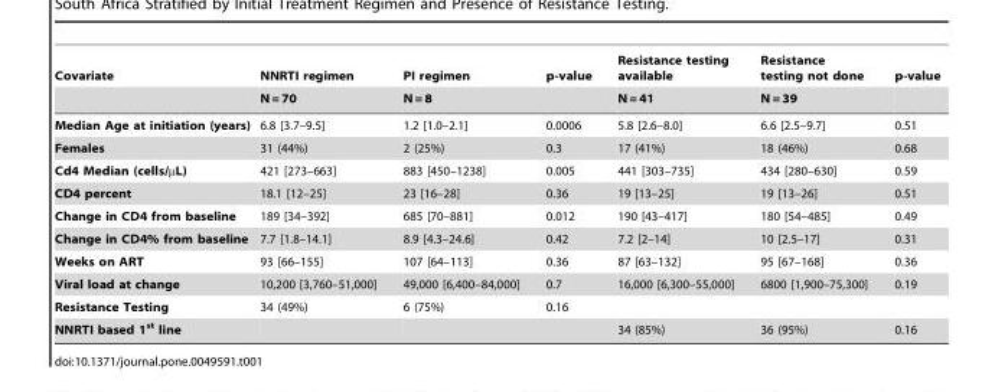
<table><thead><tr><td rowspan="2">Covariate</td><td rowspan="2">NNRTI regimen N = 70</td><td rowspan="2">PI regimen N = 8</td><td rowspan="2">p-value</td><td rowspan="2">Resistance testing available N = 41</td><td rowspan="2">Resistance testing not done N = 39</td><td rowspan="2">p-value</td></tr><tr></tr></thead><tbody><tr><td>Median Age at initiation (years)</td><td>6.8 [3.7–9.5]</td><td>1.2 [1.0–2.1]</td><td>0.0006</td><td>5.8 [2.6–8.0]</td><td>6.6 [2.5–9.7]</td><td>0.51</td></tr><tr><td>Females</td><td>31 (44%)</td><td>2 (25%)</td><td>0.3</td><td>17 (41%)</td><td>18 (46%)</td><td>0.68</td></tr><tr><td>Cd4 Median (cells/µL)</td><td>421 [273–663]</td><td>883 [450–1238]</td><td>0.005</td><td>441 [303–735]</td><td>434 [280–630]</td><td>0.59</td></tr><tr><td>CD4 percent</td><td>18.1 [12–25]</td><td>23 [16–28]</td><td>0.36</td><td>19 [13–25]</td><td>19 [13–26]</td><td>0.51</td></tr><tr><td>Change in CD4 from baseline</td><td>189 [34–392]</td><td>685 [70–881]</td><td>0.012</td><td>190 [43–417]</td><td>180 [54–485]</td><td>0.49</td></tr><tr><td>Change in CD4% from baseline</td><td>7.7 [1.8–14.1]</td><td>8.9 [4.3–24.6]</td><td>0.42</td><td>7.2 [2–14]</td><td>10 [2.5–17]</td><td>0.31</td></tr><tr><td>Weeks on ART</td><td>93 [66–155]</td><td>107 [64–113]</td><td>0.36</td><td>87 [63–132]</td><td>95 [67–168]</td><td>0.36</td></tr><tr><td>Viral load at change</td><td>10,200 [3,760–51,000]</td><td>49,000 [6,400–84,000]</td><td>0.7</td><td>16,000 [6,300–55,000]</td><td>6800 [1,900–75,300]</td><td>0.19</td></tr><tr><td>Resistance Testing</td><td>34 (49%)</td><td>6 (75%)</td><td>0.16</td><td></td><td></td><td></td></tr><tr><td>NNRTI based 1<sup>st</sup> line</td><td></td><td></td><td></td><td>34 (85%)</td><td>36 (95%)</td><td>0.16</td></tr></tbody></table>